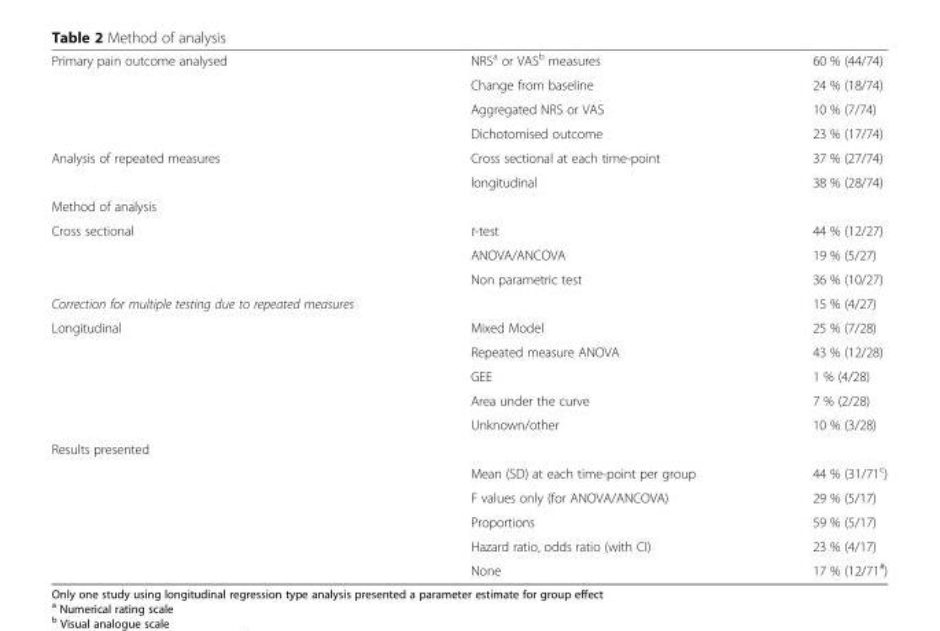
<table><tbody><tr><td rowspan="4">Primary pain outcome analysed</td><td>NRS<sup>a</sup> or VAS<sup>b</sup> measures</td><td>60 % (44/74)</td></tr><tr><td>Change from baseline</td><td>24 % (18/74)</td></tr><tr><td>Aggregated NRS or VAS</td><td>10 % (7/74)</td></tr><tr><td>Dichotomised outcome</td><td>23 % (17/74)</td></tr><tr><td rowspan="2">Analysis of repeated measures</td><td>Cross sectional at each time-point</td><td>37 % (27/74)</td></tr><tr><td>longitudinal</td><td>38 % (28/74)</td></tr><tr><td colspan="3">Method of analysis</td></tr><tr><td rowspan="3">Cross sectional</td><td>t-test</td><td>44 % (12/27)</td></tr><tr><td>ANOVA/ANCOVA</td><td>19 % (5/27)</td></tr><tr><td>Non parametric test</td><td>36 % (10/27)</td></tr><tr><td>Correction for multiple testing due to repeated measures</td><td></td><td>15 % (4/27)</td></tr><tr><td rowspan="5">Longitudinal</td><td>Mixed Model</td><td>25 % (7/28)</td></tr><tr><td>Repeated measure ANOVA</td><td>43 % (12/28)</td></tr><tr><td>GEE</td><td>1 % (4/28)</td></tr><tr><td>Area under the curve</td><td>7 % (2/28)</td></tr><tr><td>Unknown/other</td><td>10 % (3/28)</td></tr><tr><td colspan="3">Results presented</td></tr><tr><td></td><td>Mean (SD) at each time-point per group</td><td>44 % (31/71<sup>c</sup>)</td></tr><tr><td></td><td>F values only (for ANOVA/ANCOVA)</td><td>29 % (5/17)</td></tr><tr><td></td><td>Proportions</td><td>59 % (5/17)</td></tr><tr><td></td><td>Hazard ratio, odds ratio (with CI)</td><td>23 % (4/17)</td></tr><tr><td></td><td>None</td><td>17 % (12/71<sup>#</sup>)</td></tr></tbody></table>